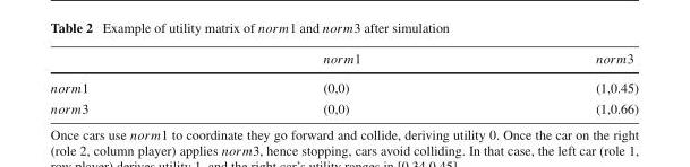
<table><thead><tr><td></td><td>norm1</td><td>norm3</td></tr></thead><tbody><tr><td>norm1</td><td>(0,0)</td><td>(1,0.45)</td></tr><tr><td>norm3</td><td>(0,0)</td><td>(1,0.66)</td></tr></tbody></table>